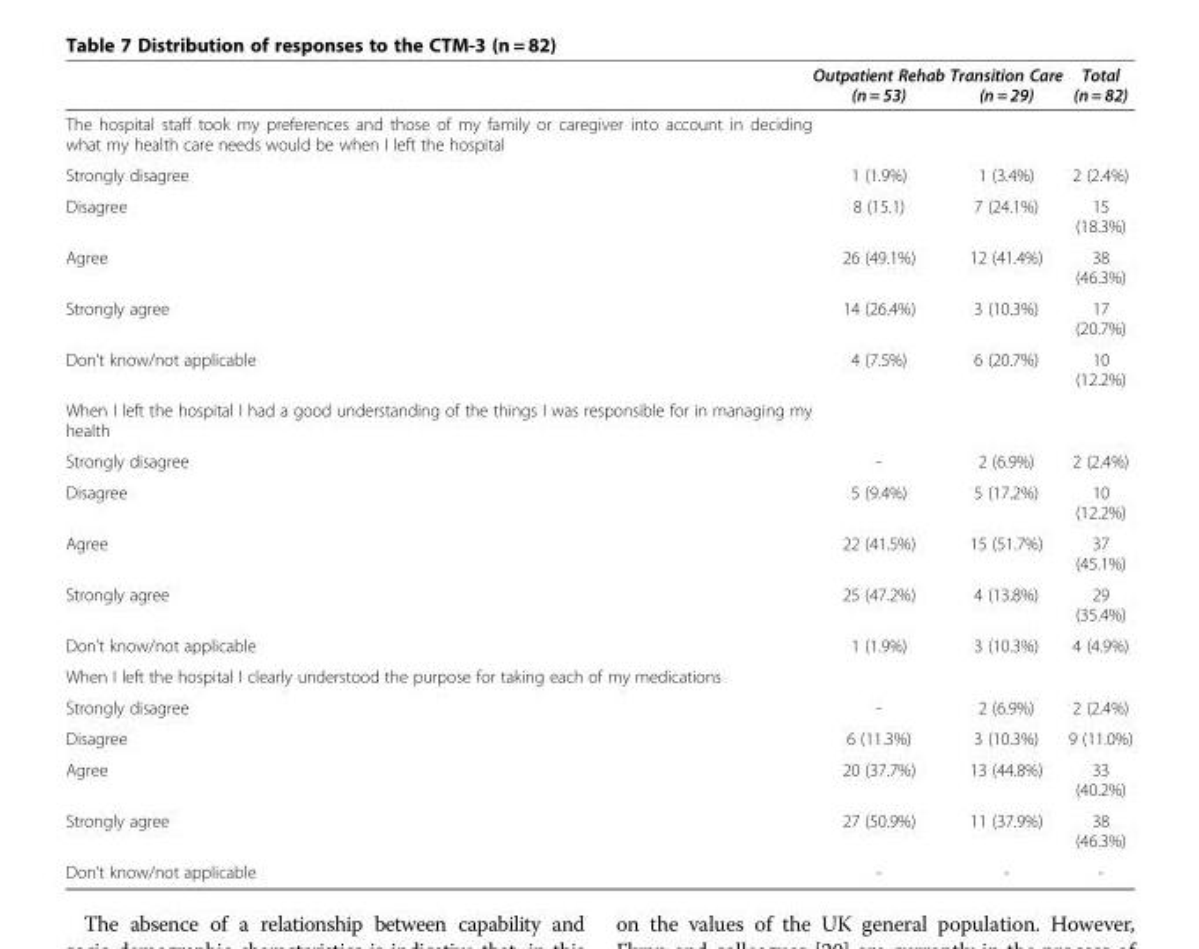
<table><thead><tr><td></td><td>Outpatient Rehab (n = 53)</td><td>Transition Care (n = 29)</td><td>Total (n = 82)</td></tr></thead><tbody><tr><td colspan="4">The hospital staff took my preferences and those of my family or caregiver into account in deciding what my health care needs would be when I left the hospital</td></tr><tr><td>Strongly disagree</td><td>1 (1.9%)</td><td>1 (3.4%)</td><td>2 (2.4%)</td></tr><tr><td>Disagree</td><td>8 (15.1)</td><td>7 (24.1%)</td><td>15 (18.3%)</td></tr><tr><td>Agree</td><td>26 (49.1%)</td><td>12 (41.4%)</td><td>38 (46.3%)</td></tr><tr><td>Strongly agree</td><td>14 (26.4%)</td><td>3 (10.3%)</td><td>17 (20.7%)</td></tr><tr><td>Don’t know/not applicable</td><td>4 (7.5%)</td><td>6 (20.7%)</td><td>10 (12.2%)</td></tr><tr><td colspan="4">When I left the hospital I had a good understanding of the things I was responsible for in managing my health</td></tr><tr><td>Strongly disagree</td><td>-</td><td>2 (6.9%)</td><td>2 (2.4%)</td></tr><tr><td>Disagree</td><td>5 (9.4%)</td><td>5 (17.2%)</td><td>10 (12.2%)</td></tr><tr><td>Agree</td><td>22 (41.5%)</td><td>15 (51.7%)</td><td>37 (45.1%)</td></tr><tr><td>Strongly agree</td><td>25 (47.2%)</td><td>4 (13.8%)</td><td>29 (35.4%)</td></tr><tr><td>Don’t know/not applicable</td><td>1 (1.9%)</td><td>3 (10.3%)</td><td>4 (4.9%)</td></tr><tr><td colspan="4">When I left the hospital I clearly understood the purpose for taking each of my medications</td></tr><tr><td>Strongly disagree</td><td>-</td><td>2 (6.9%)</td><td>2 (2.4%)</td></tr><tr><td>Disagree</td><td>6 (11.3%)</td><td>3 (10.3%)</td><td>9 (11.0%)</td></tr><tr><td>Agree</td><td>20 (37.7%)</td><td>13 (44.8%)</td><td>33 (40.2%)</td></tr><tr><td>Strongly agree</td><td>27 (50.9%)</td><td>11 (37.9%)</td><td>38 (46.3%)</td></tr><tr><td>Don’t know/not applicable</td><td>-</td><td>-</td><td>-</td></tr></tbody></table>